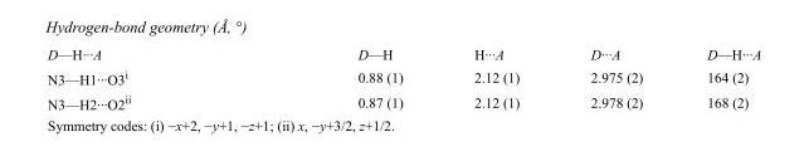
<table><tbody><tr><td>D—H···A</td><td>D—H</td><td>H···A</td><td>D···A</td><td>D—H···A</td></tr><tr><td>N3—H1···O3<sup>i</sup></td><td>0.88 (1)</td><td>2.12 (1)</td><td>2.975 (2)</td><td>164 (2)</td></tr><tr><td>N3—H2···O2<sup>ii</sup></td><td>0.87 (1)</td><td>2.12 (1)</td><td>2.978 (2)</td><td>168 (2)</td></tr></tbody></table>